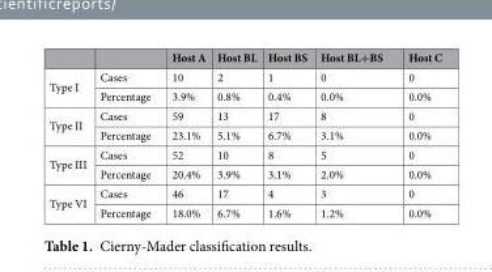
<table><thead><tr><td></td><td></td><td>Host A</td><td>Host BL</td><td>Host BS</td><td>Host BL+BS</td><td>Host C</td></tr></thead><tbody><tr><td rowspan="2">Type I</td><td>Cases</td><td>10</td><td>2</td><td>1</td><td>0</td><td>0</td></tr><tr><td>Percentage</td><td>3.9%</td><td>0.8%</td><td>0.4%</td><td>0.0%</td><td>0.0%</td></tr><tr><td rowspan="2">Type II</td><td>Cases</td><td>59</td><td>13</td><td>17</td><td>8</td><td>0</td></tr><tr><td>Percentage</td><td>23.1%</td><td>5.1%</td><td>6.7%</td><td>3.1%</td><td>0.0%</td></tr><tr><td rowspan="2">Type III</td><td>Cases</td><td>52</td><td>10</td><td>8</td><td>5</td><td>0</td></tr><tr><td>Percentage</td><td>20.4%</td><td>3.9%</td><td>3.1%</td><td>2.0%</td><td>0.0%</td></tr><tr><td rowspan="2">Type VI</td><td>Cases</td><td>46</td><td>17</td><td>4</td><td>3</td><td>0</td></tr><tr><td>Percentage</td><td>18.0%</td><td>6.7%</td><td>1.6%</td><td>1.2%</td><td>0.0%</td></tr></tbody></table>